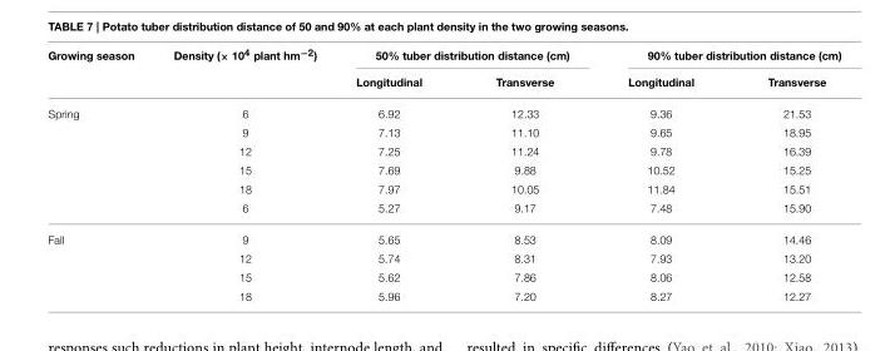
<table><thead><tr><td rowspan="2">Growing season</td><td rowspan="2">Density (× 10<sup>4</sup> plant hm<sup>−2</sup>)</td><td colspan="2">50% tuber distribution distance (cm)</td><td colspan="2">90% tuber distribution distance (cm)</td></tr><tr><td>Longitudinal</td><td>Transverse</td><td>Longitudinal</td><td>Transverse</td></tr></thead><tbody><tr><td rowspan="6">Spring</td><td>6</td><td>6.92</td><td>12.33</td><td>9.36</td><td>21.53</td></tr><tr><td>9</td><td>7.13</td><td>11.10</td><td>9.65</td><td>18.95</td></tr><tr><td>12</td><td>7.25</td><td>11.24</td><td>9.78</td><td>16.39</td></tr><tr><td>15</td><td>7.69</td><td>9.88</td><td>10.52</td><td>15.25</td></tr><tr><td>18</td><td>7.97</td><td>10.05</td><td>11.84</td><td>15.51</td></tr><tr><td>6</td><td>5.27</td><td>9.17</td><td>7.48</td><td>15.90</td></tr><tr><td rowspan="4">Fall</td><td>9</td><td>5.65</td><td>8.53</td><td>8.09</td><td>14.46</td></tr><tr><td>12</td><td>5.74</td><td>8.31</td><td>7.93</td><td>13.20</td></tr><tr><td>15</td><td>5.62</td><td>7.86</td><td>8.06</td><td>12.58</td></tr><tr><td>18</td><td>5.96</td><td>7.20</td><td>8.27</td><td>12.27</td></tr></tbody></table>